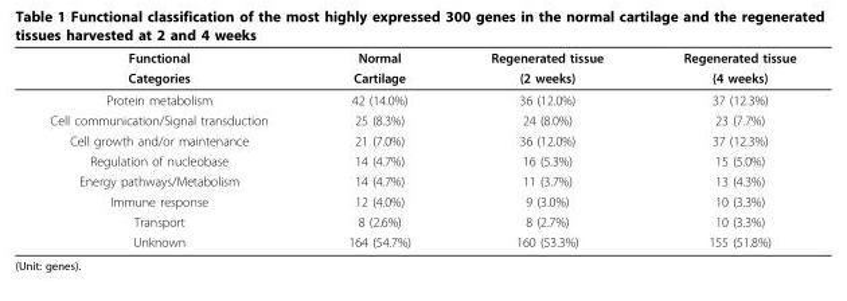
<table><thead><tr><td rowspan="2">Functional Categories</td><td rowspan="2">Normal Cartilage</td><td rowspan="2">Regenerated tissue (2 weeks)</td><td rowspan="2">Regenerated tissue (4 weeks)</td></tr><tr></tr></thead><tbody><tr><td>Protein metabolism</td><td>42 (14.0%)</td><td>36 (12.0%)</td><td>37 (12.3%)</td></tr><tr><td>Cell communication/Signal transduction</td><td>25 (8.3%)</td><td>24 (8.0%)</td><td>23 (7.7%)</td></tr><tr><td>Cell growth and/or maintenance</td><td>21 (7.0%)</td><td>36 (12.0%)</td><td>37 (12.3%)</td></tr><tr><td>Regulation of nucleobase</td><td>14 (4.7%)</td><td>16 (5.3%)</td><td>15 (5.0%)</td></tr><tr><td>Energy pathways/Metabolism</td><td>14 (4.7%)</td><td>11 (3.7%)</td><td>13 (4.3%)</td></tr><tr><td>Immune response</td><td>12 (4.0%)</td><td>9 (3.0%)</td><td>10 (3.3%)</td></tr><tr><td>Transport</td><td>8 (2.6%)</td><td>8 (2.7%)</td><td>10 (3.3%)</td></tr><tr><td>Unknown</td><td>164 (54.7%)</td><td>160 (53.3%)</td><td>155 (51.8%)</td></tr></tbody></table>